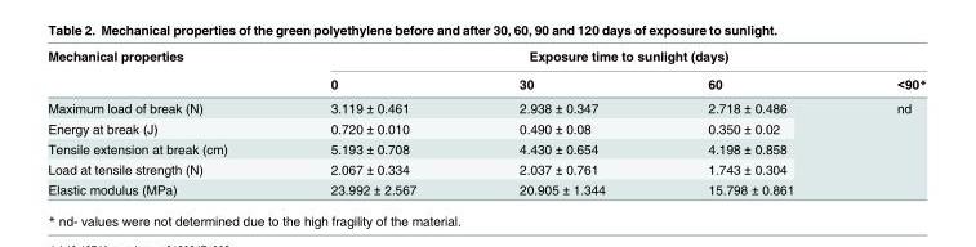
<table><thead><tr><td rowspan="2">Mechanical properties</td><td colspan="4">Exposure time to sunlight (days)</td></tr><tr><td>0</td><td>30</td><td>60</td><td>&lt;90*</td></tr></thead><tbody><tr><td>Maximum load of break (N)</td><td>3.119 ± 0.461</td><td>2.938 ± 0.347</td><td>2.718 ± 0.486</td><td rowspan="5">nd</td></tr><tr><td>Energy at break (J)</td><td>0.720 ± 0.010</td><td>0.490 ± 0.08</td><td>0.350 ± 0.02</td></tr><tr><td>Tensile extension at break (cm)</td><td>5.193 ± 0.708</td><td>4.430 ± 0.654</td><td>4.198 ± 0.858</td></tr><tr><td>Load at tensile strength (N)</td><td>2.067 ± 0.334</td><td>2.037 ± 0.761</td><td>1.743 ± 0.304</td></tr><tr><td>Elastic modulus (MPa)</td><td>23.992 ± 2.567</td><td>20.905 ± 1.344</td><td>15.798 ± 0.861</td></tr></tbody></table>